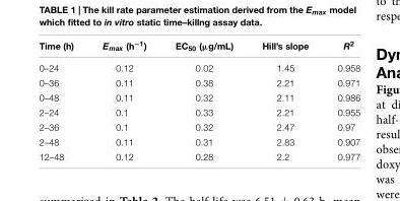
<table><thead><tr><td>Time (h)</td><td>E<sub>max</sub> (h<sup>−1</sup>)</td><td>EC<sub>50</sub> (µg/mL)</td><td>Hill’s slope</td><td>R<sup>2</sup></td></tr></thead><tbody><tr><td>0–24</td><td>0.12</td><td>0.02</td><td>1.45</td><td>0.958</td></tr><tr><td>0–36</td><td>0.11</td><td>0.38</td><td>2.21</td><td>0.971</td></tr><tr><td>0–48</td><td>0.11</td><td>0.32</td><td>2.11</td><td>0.986</td></tr><tr><td>2–24</td><td>0.1</td><td>0.33</td><td>2.21</td><td>0.955</td></tr><tr><td>2–36</td><td>0.1</td><td>0.32</td><td>2.47</td><td>0.97</td></tr><tr><td>2–48</td><td>0.11</td><td>0.31</td><td>2.83</td><td>0.907</td></tr><tr><td>12–48</td><td>0.12</td><td>0.28</td><td>2.2</td><td>0.977</td></tr></tbody></table>